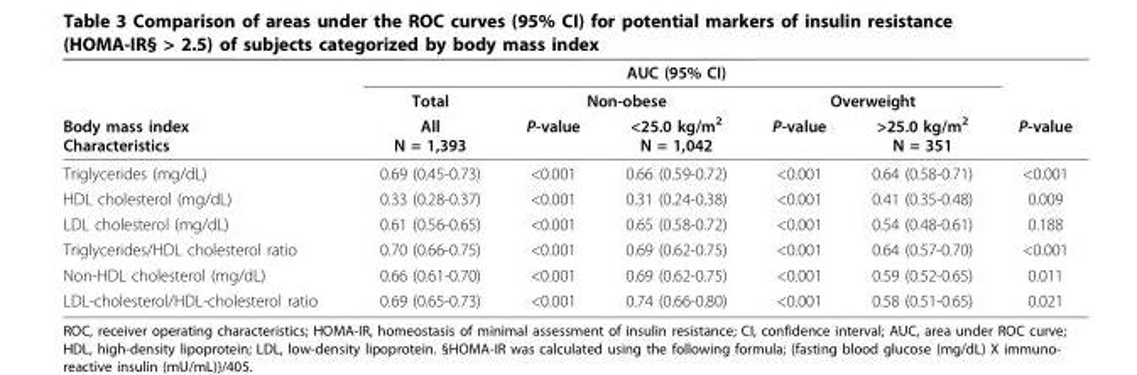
<table><thead><tr><td rowspan="3">Body mass index Characteristics</td><td colspan="5">AUC (95% CI)</td><td rowspan="3">P-value</td></tr><tr><td rowspan="2">Total All N = 1,393</td><td colspan="2">Non-obese</td><td colspan="2">Overweight</td></tr><tr><td>P-value</td><td>&lt;25.0 kg/m<sup>2</sup> N = 1,042</td><td>P-value</td><td>&gt;25.0 kg/m<sup>2</sup> N = 351</td></tr></thead><tbody><tr><td>Triglycerides (mg/dL)</td><td>0.69 (0.45-0.73)</td><td>&lt;0.001</td><td>0.66 (0.59-0.72)</td><td>&lt;0.001</td><td>0.64 (0.58-0.71)</td><td>&lt;0.001</td></tr><tr><td>HDL cholesterol (mg/dL)</td><td>0.33 (0.28-0.37)</td><td>&lt;0.001</td><td>0.31 (0.24-0.38)</td><td>&lt;0.001</td><td>0.41 (0.35-0.48)</td><td>0.009</td></tr><tr><td>LDL cholesterol (mg/dL)</td><td>0.61 (0.56-0.65)</td><td>&lt;0.001</td><td>0.65 (0.58-0.72)</td><td>&lt;0.001</td><td>0.54 (0.48-0.61)</td><td>0.188</td></tr><tr><td>Triglycerides/HDL cholesterol ratio</td><td>0.70 (0.66-0.75)</td><td>&lt;0.001</td><td>0.69 (0.62-0.75)</td><td>&lt;0.001</td><td>0.64 (0.57-0.70)</td><td>&lt;0.001</td></tr><tr><td>Non-HDL cholesterol (mg/dL)</td><td>0.66 (0.61-0.70)</td><td>&lt;0.001</td><td>0.69 (0.62-0.75)</td><td>&lt;0.001</td><td>0.59 (0.52-0.65)</td><td>0.011</td></tr><tr><td>LDL-cholesterol/HDL-cholesterol ratio</td><td>0.69 (0.65-0.73)</td><td>&lt;0.001</td><td>0.74 (0.66-0.80)</td><td>&lt;0.001</td><td>0.58 (0.51-0.65)</td><td>0.021</td></tr></tbody></table>